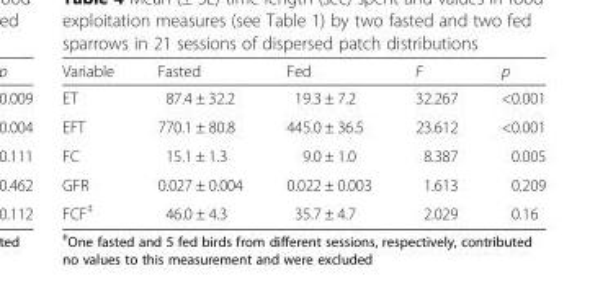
<table><thead><tr><td>Variable</td><td>Fasted</td><td>Fed</td><td>F</td><td>p</td></tr></thead><tbody><tr><td>ET</td><td>87.4 ± 32.2</td><td>19.3 ± 7.2</td><td>32.267</td><td>&lt;0.001</td></tr><tr><td>EFT</td><td>770.1 ± 80.8</td><td>445.0 ± 36.5</td><td>23.612</td><td>&lt;0.001</td></tr><tr><td>FC</td><td>15.1 ± 1.3</td><td>9.0 ± 1.0</td><td>8.387</td><td>0.005</td></tr><tr><td>GFR</td><td>0.027 ± 0.004</td><td>0.022 ± 0.003</td><td>1.613</td><td>0.209</td></tr><tr><td>FCF<sup>‡</sup></td><td>46.0 ± 4.3</td><td>35.7 ± 4.7</td><td>2.029</td><td>0.16</td></tr></tbody></table>